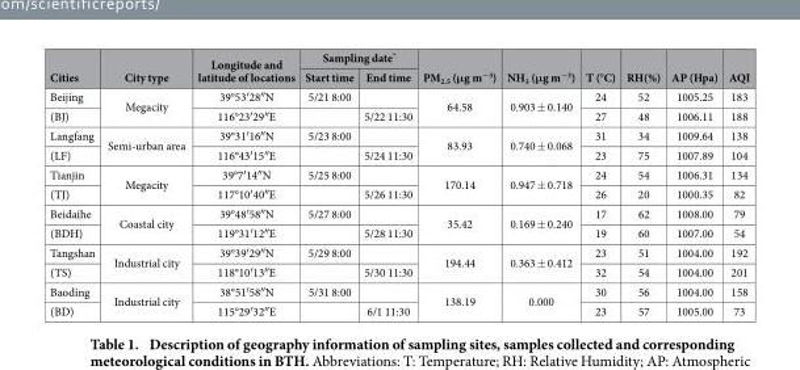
<table><thead><tr><td rowspan="2">Cities</td><td rowspan="2">City type</td><td rowspan="2">Longitude and latitude of locations</td><td colspan="2">Sampling date*</td><td rowspan="2">PM<sub>2.5</sub> (μg m<sup>−3</sup>)</td><td rowspan="2">NH<sub>3</sub> (μg m<sup>−3</sup>)</td><td rowspan="2">T (°C)</td><td rowspan="2">RH(%)</td><td rowspan="2">AP (Hpa)</td><td rowspan="2">AQI</td></tr><tr><td>Start time</td><td>End time</td></tr></thead><tbody><tr><td>Beijing</td><td rowspan="2">Megacity</td><td>39°53′ 28″ N</td><td>5/21 8:00</td><td></td><td rowspan="2">64.58</td><td rowspan="2">0.903 ± 0.140</td><td>24</td><td>52</td><td>1005.25</td><td>183</td></tr><tr><td>(BJ)</td><td>116°23′ 29″ E</td><td></td><td>5/22 11:30</td><td>27</td><td>48</td><td>1006.11</td><td>188</td></tr><tr><td>Langfang</td><td rowspan="2">Semi-urban area</td><td>39°31′ 16″ N</td><td>5/23 8:00</td><td></td><td rowspan="2">83.93</td><td rowspan="2">0.740 ± 0.068</td><td>31</td><td>34</td><td>1009.64</td><td>138</td></tr><tr><td>(LF)</td><td>116°43′ 15″ E</td><td></td><td>5/24 11:30</td><td>23</td><td>75</td><td>1007.89</td><td>104</td></tr><tr><td>Tianjin</td><td rowspan="2">Megacity</td><td>39°7′ 14″ N</td><td>5/25 8:00</td><td></td><td rowspan="2">170.14</td><td rowspan="2">0.947 ± 0.718</td><td>24</td><td>54</td><td>1006.31</td><td>134</td></tr><tr><td>(TJ)</td><td>117°10′ 40″ E</td><td></td><td>5/26 11:30</td><td>26</td><td>20</td><td>1000.35</td><td>82</td></tr><tr><td>Beidaihe</td><td rowspan="2">Coastal city</td><td>39°48′ 58″ N</td><td>5/27 8:00</td><td></td><td rowspan="2">35.42</td><td rowspan="2">0.169 ± 0.240</td><td>17</td><td>62</td><td>1008.00</td><td>79</td></tr><tr><td>(BDH)</td><td>119°31′ 12″ E</td><td></td><td>5/28 11:30</td><td>19</td><td>60</td><td>1007.00</td><td>54</td></tr><tr><td>Tangshan</td><td rowspan="2">Industrial city</td><td>39°39′ 29″ N</td><td>5/29 8:00</td><td></td><td rowspan="2">194.44</td><td rowspan="2">0.363 ± 0.412</td><td>23</td><td>51</td><td>1004.00</td><td>192</td></tr><tr><td>(TS)</td><td>118°10′ 13″ E</td><td></td><td>5/30 11:30</td><td>32</td><td>54</td><td>1004.00</td><td>201</td></tr><tr><td>Baoding</td><td rowspan="2">Industrial city</td><td>38°51′ 58″ N</td><td>5/31 8:00</td><td></td><td rowspan="2">138.19</td><td rowspan="2">0.000</td><td>30</td><td>56</td><td>1004.00</td><td>158</td></tr><tr><td>(BD)</td><td>115°29′ 32″ E</td><td></td><td>6/1 11:30</td><td>23</td><td>57</td><td>1005.00</td><td>73</td></tr></tbody></table>